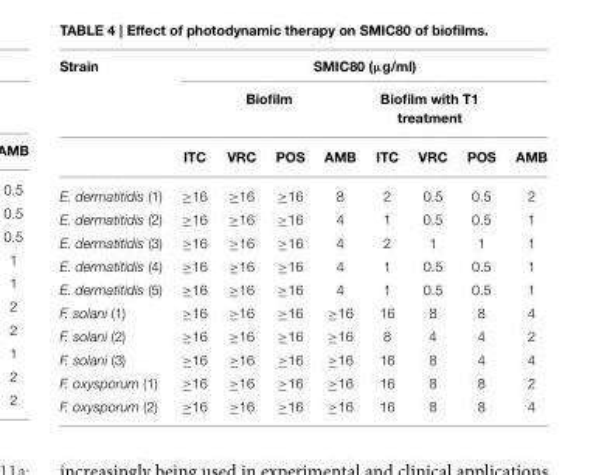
<table><thead><tr><td rowspan="3">Strain</td><td colspan="8">SMIC80 (µg/ml)</td></tr><tr><td colspan="4">Biofilm</td><td colspan="4">Biofilm with T1 treatment</td></tr><tr><td>ITC</td><td>VRC</td><td>POS</td><td>AMB</td><td>ITC</td><td>VRC</td><td>POS</td><td>AMB</td></tr></thead><tbody><tr><td>E. dermatitidis (1)</td><td>≥16</td><td>≥16</td><td>≥16</td><td>8</td><td>2</td><td>0.5</td><td>0.5</td><td>2</td></tr><tr><td>E. dermatitidis (2)</td><td>≥16</td><td>≥16</td><td>≥16</td><td>4</td><td>1</td><td>0.5</td><td>0.5</td><td>1</td></tr><tr><td>E. dermatitidis (3)</td><td>≥16</td><td>≥16</td><td>≥16</td><td>4</td><td>2</td><td>1</td><td>1</td><td>1</td></tr><tr><td>E. dermatitidis (4)</td><td>≥16</td><td>≥16</td><td>≥16</td><td>4</td><td>1</td><td>0.5</td><td>0.5</td><td>1</td></tr><tr><td>E. dermatitidis (5)</td><td>≥16</td><td>≥16</td><td>≥16</td><td>4</td><td>1</td><td>0.5</td><td>0.5</td><td>1</td></tr><tr><td>F. solani (1)</td><td>≥16</td><td>≥16</td><td>≥16</td><td>≥16</td><td>16</td><td>8</td><td>8</td><td>4</td></tr><tr><td>F. solani (2)</td><td>≥16</td><td>≥16</td><td>≥16</td><td>≥16</td><td>8</td><td>4</td><td>4</td><td>2</td></tr><tr><td>F. solani (3)</td><td>≥16</td><td>≥16</td><td>≥16</td><td>≥16</td><td>16</td><td>8</td><td>4</td><td>4</td></tr><tr><td>F. oxysporum (1)</td><td>≥16</td><td>≥16</td><td>≥16</td><td>≥16</td><td>16</td><td>8</td><td>8</td><td>2</td></tr><tr><td>F. oxysporum (2)</td><td>≥16</td><td>≥16</td><td>≥16</td><td>≥16</td><td>16</td><td>8</td><td>8</td><td>4</td></tr></tbody></table>